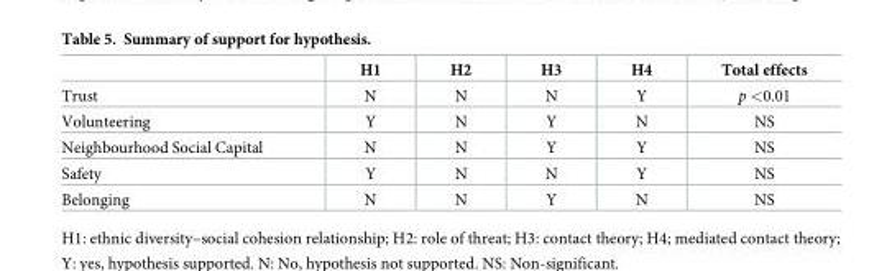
<table><thead><tr><td></td><td>H1</td><td>H2</td><td>H3</td><td>H4</td><td>Total effects</td></tr></thead><tbody><tr><td>Trust</td><td>N</td><td>N</td><td>N</td><td>Y</td><td>p &lt;0.01</td></tr><tr><td>Volunteering</td><td>Y</td><td>N</td><td>Y</td><td>N</td><td>NS</td></tr><tr><td>Neighbourhood Social Capital</td><td>N</td><td>N</td><td>Y</td><td>Y</td><td>NS</td></tr><tr><td>Safety</td><td>Y</td><td>N</td><td>N</td><td>Y</td><td>NS</td></tr><tr><td>Belonging</td><td>N</td><td>N</td><td>Y</td><td>N</td><td>NS</td></tr></tbody></table>